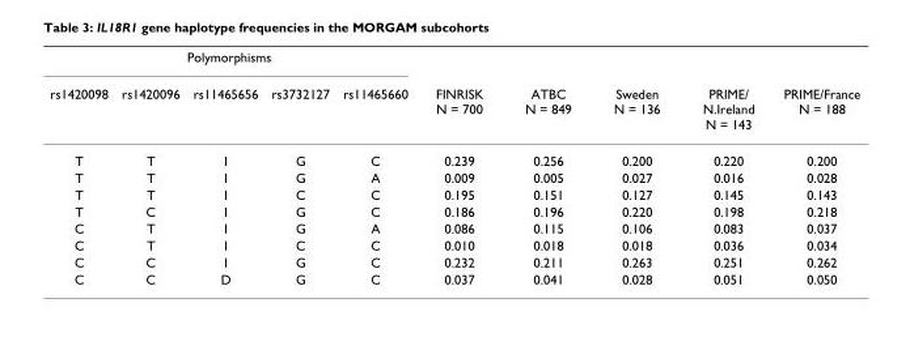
<table><thead><tr><td colspan="5">Polymorphisms</td><td rowspan="2">FINRISK N = 700</td><td rowspan="2">ATBC N = 849</td><td rowspan="2">Sweden N = 136</td><td rowspan="2">PRIME/ N.Ireland N = 143</td><td rowspan="2">PRIME/France N = 188</td></tr><tr><td>rs1420098</td><td>rs1420096</td><td>rs11465656</td><td>rs3732127</td><td>rs11465660</td></tr></thead><tbody><tr><td>T</td><td>T</td><td>I</td><td>G</td><td>C</td><td>0.239</td><td>0.256</td><td>0.200</td><td>0.220</td><td>0.200</td></tr><tr><td>T</td><td>T</td><td>I</td><td>G</td><td>A</td><td>0.009</td><td>0.005</td><td>0.027</td><td>0.016</td><td>0.028</td></tr><tr><td>T</td><td>T</td><td>I</td><td>C</td><td>C</td><td>0.195</td><td>0.151</td><td>0.127</td><td>0.145</td><td>0.143</td></tr><tr><td>T</td><td>C</td><td>I</td><td>G</td><td>C</td><td>0.186</td><td>0.196</td><td>0.220</td><td>0.198</td><td>0.218</td></tr><tr><td>C</td><td>T</td><td>I</td><td>G</td><td>A</td><td>0.086</td><td>0.115</td><td>0.106</td><td>0.083</td><td>0.037</td></tr><tr><td>C</td><td>T</td><td>I</td><td>C</td><td>C</td><td>0.010</td><td>0.018</td><td>0.018</td><td>0.036</td><td>0.034</td></tr><tr><td>C</td><td>C</td><td>I</td><td>G</td><td>C</td><td>0.232</td><td>0.211</td><td>0.263</td><td>0.251</td><td>0.262</td></tr><tr><td>C</td><td>C</td><td>D</td><td>G</td><td>C</td><td>0.037</td><td>0.041</td><td>0.028</td><td>0.051</td><td>0.050</td></tr></tbody></table>